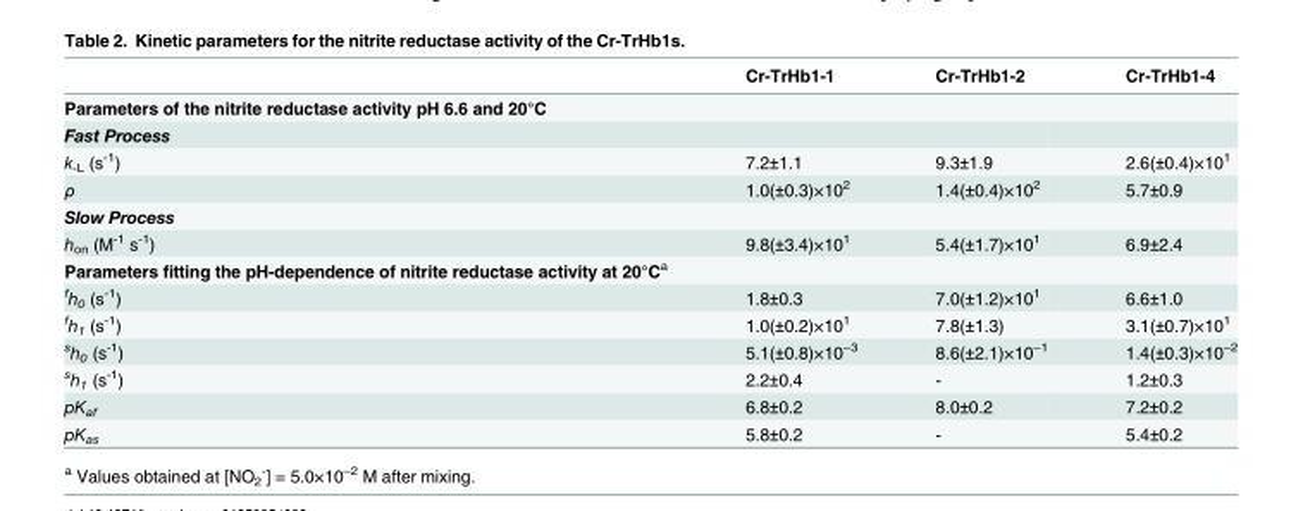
<table><thead><tr><td></td><td>Cr-TrHb1-1</td><td>Cr-TrHb1-2</td><td>Cr-TrHb1-4</td></tr></thead><tbody><tr><td colspan="4">Parameters of the nitrite reductase activity pH 6.6 and 20°C</td></tr><tr><td colspan="4">Fast Process</td></tr><tr><td>k<sub>-L</sub> (s<sup>-1</sup>)</td><td>7.2±1.1</td><td>9.3±1.9</td><td>2.6(±0.4)×10<sup>1</sup></td></tr><tr><td>ρ</td><td>1.0(±0.3)×10<sup>2</sup></td><td>1.4(±0.4)×10<sup>2</sup></td><td>5.7±0.9</td></tr><tr><td colspan="4">Slow Process</td></tr><tr><td>h<sub>on</sub> (M<sup>-1</sup> s<sup>-1</sup>)</td><td>9.8(±3.4)×10<sup>1</sup></td><td>5.4(±1.7)×10<sup>1</sup></td><td>6.9±2.4</td></tr><tr><td colspan="4">Parameters fitting the pH-dependence of nitrite reductase activity at 20°C<sup>a</sup></td></tr><tr><td><sup>f</sup>h<sub>0</sub> (s<sup>-1</sup>)</td><td>1.8±0.3</td><td>7.0(±1.2)×10<sup>1</sup></td><td>6.6±1.0</td></tr><tr><td><sup>f</sup>h<sub>1</sub> (s<sup>-1</sup>)</td><td>1.0(±0.2)×10<sup>1</sup></td><td>7.8(±1.3)</td><td>3.1(±0.7)×10<sup>1</sup></td></tr><tr><td><sup>s</sup>h<sub>0</sub> (s<sup>-1</sup>)</td><td>5.1(±0.8)×10<sup>−3</sup></td><td>8.6(±2.1)×10<sup>−1</sup></td><td>1.4(±0.3)×10<sup>−2</sup></td></tr><tr><td><sup>s</sup>h<sub>1</sub> (s<sup>-1</sup>)</td><td>2.2±0.4</td><td>-</td><td>1.2±0.3</td></tr><tr><td>pK<sub>af</sub></td><td>6.8±0.2</td><td>8.0±0.2</td><td>7.2±0.2</td></tr><tr><td>pK<sub>as</sub></td><td>5.8±0.2</td><td>-</td><td>5.4±0.2</td></tr></tbody></table>